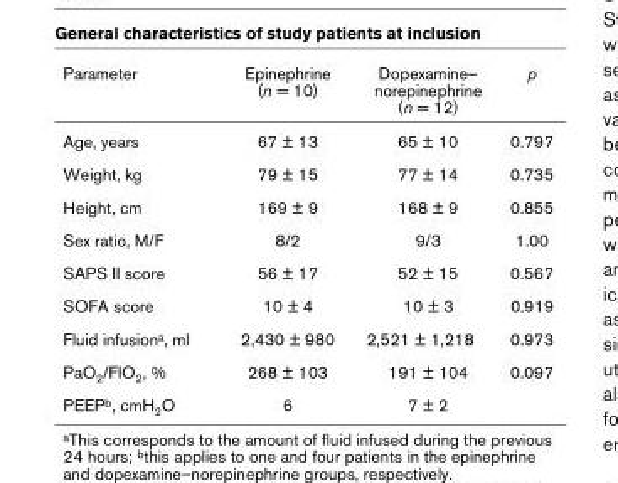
<table><thead><tr><td>Parameter</td><td>Epinephrine (n = 10)</td><td>Dopexamine– norepinephrine (n = 12)</td><td>p</td></tr></thead><tbody><tr><td>Age, years</td><td>67 ± 13</td><td>65 ± 10</td><td>0.797</td></tr><tr><td>Weight, kg</td><td>79 ± 15</td><td>77 ± 14</td><td>0.735</td></tr><tr><td>Height, cm</td><td>169 ± 9</td><td>168 ± 9</td><td>0.855</td></tr><tr><td>Sex ratio, M/F</td><td>8/2</td><td>9/3</td><td>1.00</td></tr><tr><td>SAPS II score</td><td>56 ± 17</td><td>52 ± 15</td><td>0.567</td></tr><tr><td>SOFA score</td><td>10 ± 4</td><td>10 ± 3</td><td>0.919</td></tr><tr><td>Fluid infusiona, ml</td><td>2,430 ± 980</td><td>2,521 ± 1,218</td><td>0.973</td></tr><tr><td>PaO2/FIO2, %</td><td>268 ± 103</td><td>191 ± 104</td><td>0.097</td></tr><tr><td>PEEPb, cmH2O</td><td>6</td><td>7 ± 2</td><td></td></tr></tbody></table>